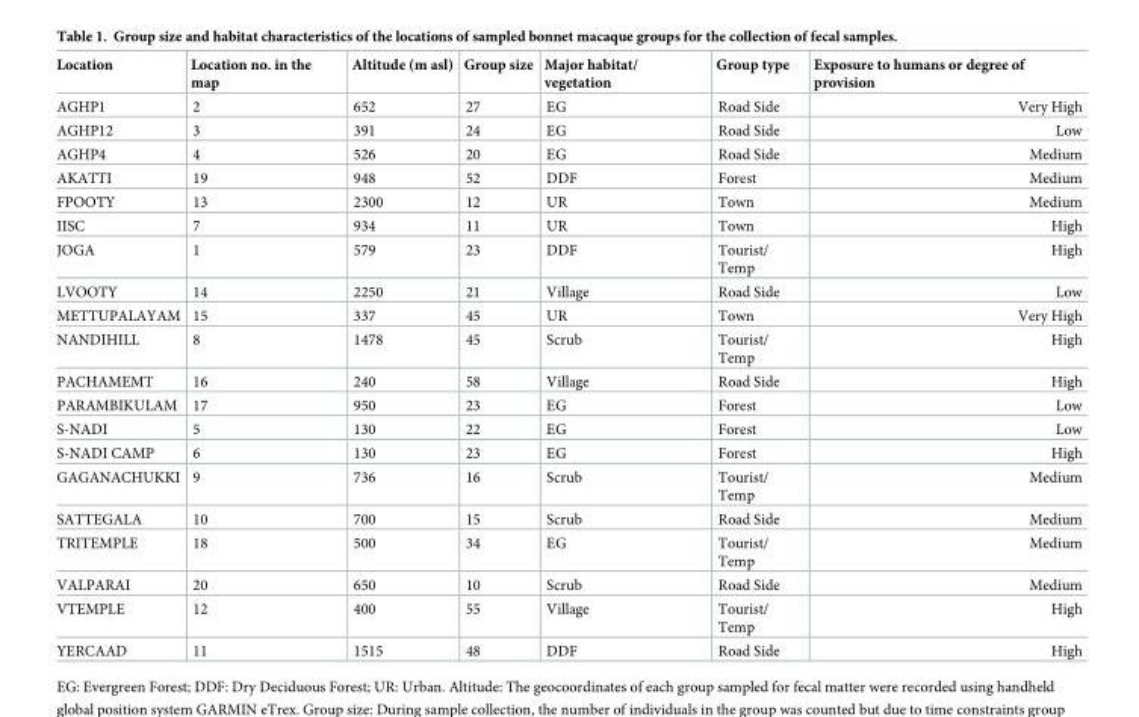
<table><thead><tr><td>Location</td><td>Location no. in the map</td><td>Altitude (m asl)</td><td>Group size</td><td>Major habitat/ vegetation</td><td>Group type</td><td>Exposure to humans or degree of provision</td></tr></thead><tbody><tr><td>AGHP1</td><td>2</td><td>652</td><td>27</td><td>EG</td><td>Road Side</td><td>Very High</td></tr><tr><td>AGHP12</td><td>3</td><td>391</td><td>24</td><td>EG</td><td>Road Side</td><td>Low</td></tr><tr><td>AGHP4</td><td>4</td><td>526</td><td>20</td><td>EG</td><td>Road Side</td><td>Medium</td></tr><tr><td>AKATTI</td><td>19</td><td>948</td><td>52</td><td>DDF</td><td>Forest</td><td>Medium</td></tr><tr><td>FPOOTY</td><td>13</td><td>2300</td><td>12</td><td>UR</td><td>Town</td><td>Medium</td></tr><tr><td>IISC</td><td>7</td><td>934</td><td>11</td><td>UR</td><td>Town</td><td>High</td></tr><tr><td>JOGA</td><td>1</td><td>579</td><td>23</td><td>DDF</td><td>Tourist/ Temp</td><td>High</td></tr><tr><td>LVOOTY</td><td>14</td><td>2250</td><td>21</td><td>Village</td><td>Road Side</td><td>Low</td></tr><tr><td>METTUPALAYAM</td><td>15</td><td>337</td><td>45</td><td>UR</td><td>Town</td><td>Very High</td></tr><tr><td>NANDIHILL</td><td>8</td><td>1478</td><td>45</td><td>Scrub</td><td>Tourist/ Temp</td><td>High</td></tr><tr><td>PACHAMEMT</td><td>16</td><td>240</td><td>58</td><td>Village</td><td>Road Side</td><td>High</td></tr><tr><td>PARAMBIKULAM</td><td>17</td><td>950</td><td>23</td><td>EG</td><td>Forest</td><td>Low</td></tr><tr><td>S-NADI</td><td>5</td><td>130</td><td>22</td><td>EG</td><td>Forest</td><td>Low</td></tr><tr><td>S-NADI CAMP</td><td>6</td><td>130</td><td>23</td><td>EG</td><td>Forest</td><td>High</td></tr><tr><td>GAGANACHUKKI</td><td>9</td><td>736</td><td>16</td><td>Scrub</td><td>Tourist/ Temp</td><td>Medium</td></tr><tr><td>SATTEGALA</td><td>10</td><td>700</td><td>15</td><td>Scrub</td><td>Road Side</td><td>Medium</td></tr><tr><td>TRITEMPLE</td><td>18</td><td>500</td><td>34</td><td>EG</td><td>Tourist/ Temp</td><td>Medium</td></tr><tr><td>VALPARAI</td><td>20</td><td>650</td><td>10</td><td>Scrub</td><td>Road Side</td><td>Medium</td></tr><tr><td>VTEMPLE</td><td>12</td><td>400</td><td>55</td><td>Village</td><td>Tourist/ Temp</td><td>High</td></tr><tr><td>YERCAAD</td><td>11</td><td>1515</td><td>48</td><td>DDF</td><td>Road Side</td><td>High</td></tr></tbody></table>